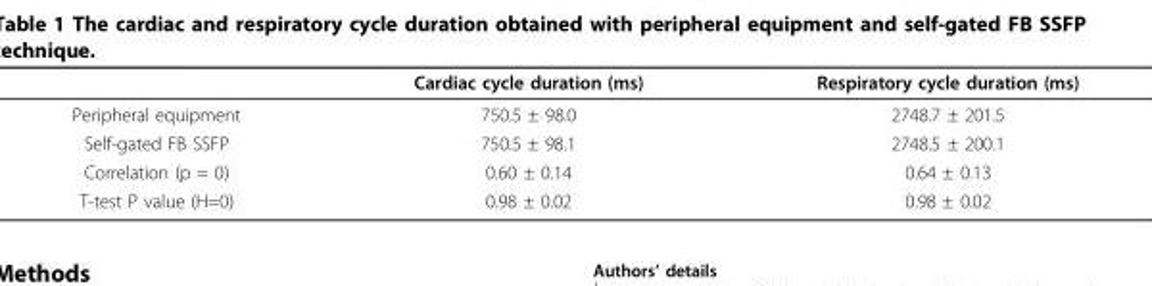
<table><thead><tr><td></td><td>Cardiac cycle duration (ms)</td><td>Respiratory cycle duration (ms)</td></tr></thead><tbody><tr><td>Peripheral equipment</td><td>750.5 ± 98.0</td><td>2748.7 ± 201.5</td></tr><tr><td>Self-gated FB SSFP</td><td>750.5 ± 98.1</td><td>2748.5 ± 200.1</td></tr><tr><td>Correlation (p = 0)</td><td>0.60 ± 0.14</td><td>0.64 ± 0.13</td></tr><tr><td>T-test P value (H=0)</td><td>0.98 ± 0.02</td><td>0.98 ± 0.02</td></tr></tbody></table>